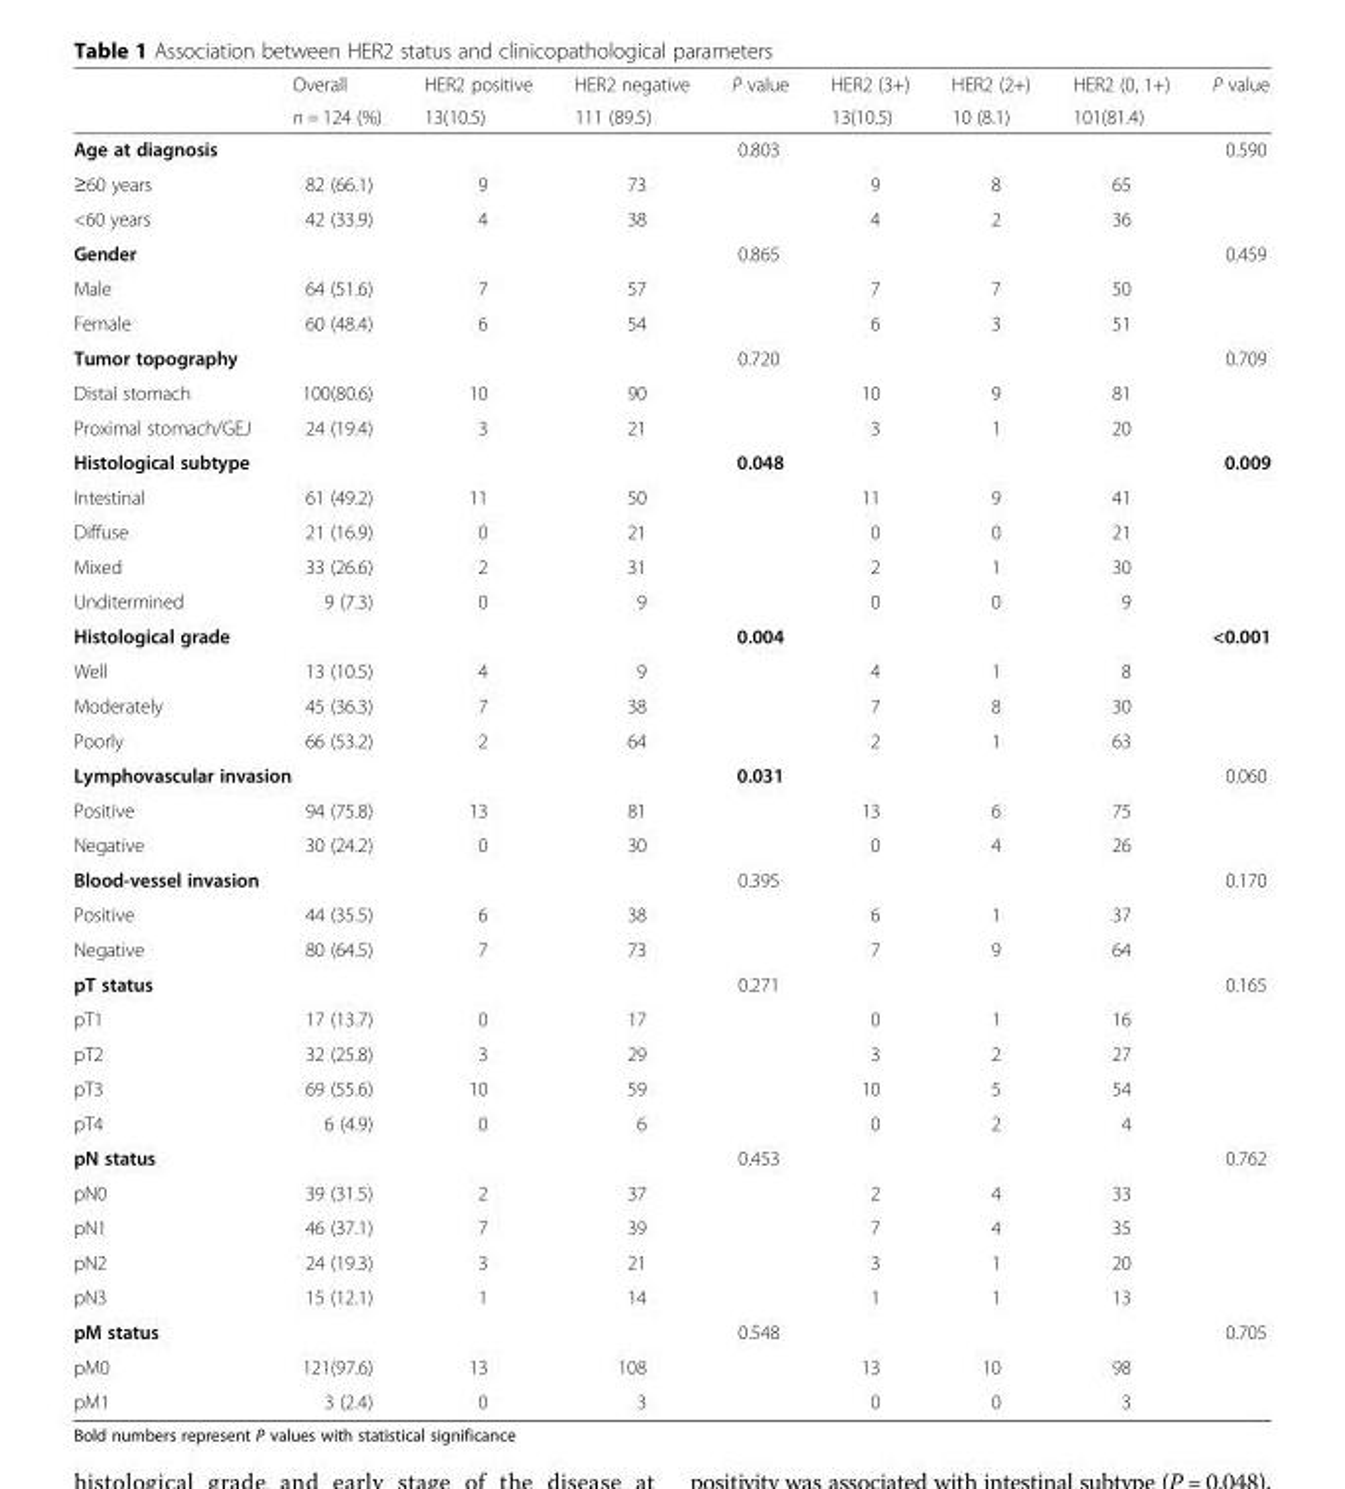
<table><thead><tr><td rowspan="2"></td><td rowspan="2">Overall n = 124 (%)</td><td rowspan="2">HER2 positive 13(10.5)</td><td rowspan="2">HER2 negative 111 (89.5)</td><td rowspan="2">P value</td><td rowspan="2">HER2 (3+) 13(10.5)</td><td rowspan="2">HER2 (2+) 10 (8.1)</td><td rowspan="2">HER2 (0, 1+) 101(81.4)</td><td rowspan="2">P value</td></tr><tr></tr></thead><tbody><tr><td colspan="2">Age at diagnosis</td><td></td><td></td><td>0.803</td><td></td><td></td><td></td><td>0.590</td></tr><tr><td>≥60 years</td><td>82 (66.1)</td><td>9</td><td>73</td><td></td><td>9</td><td>8</td><td>65</td><td></td></tr><tr><td>&lt;60 years</td><td>42 (33.9)</td><td>4</td><td>38</td><td></td><td>4</td><td>2</td><td>36</td><td></td></tr><tr><td colspan="2">Gender</td><td></td><td></td><td>0.865</td><td></td><td></td><td></td><td>0.459</td></tr><tr><td>Male</td><td>64 (51.6)</td><td>7</td><td>57</td><td></td><td>7</td><td>7</td><td>50</td><td></td></tr><tr><td>Female</td><td>60 (48.4)</td><td>6</td><td>54</td><td></td><td>6</td><td>3</td><td>51</td><td></td></tr><tr><td colspan="2">Tumor topography</td><td></td><td></td><td>0.720</td><td></td><td></td><td></td><td>0.709</td></tr><tr><td>Distal stomach</td><td>100(80.6)</td><td>10</td><td>90</td><td></td><td>10</td><td>9</td><td>81</td><td></td></tr><tr><td>Proximal stomach/GEJ</td><td>24 (19.4)</td><td>3</td><td>21</td><td></td><td>3</td><td>1</td><td>20</td><td></td></tr><tr><td colspan="2">Histological subtype</td><td></td><td></td><td>0.048</td><td></td><td></td><td></td><td>0.009</td></tr><tr><td>Intestinal</td><td>61 (49.2)</td><td>11</td><td>50</td><td></td><td>11</td><td>9</td><td>41</td><td></td></tr><tr><td>Diffuse</td><td>21 (16.9)</td><td>0</td><td>21</td><td></td><td>0</td><td>0</td><td>21</td><td></td></tr><tr><td>Mixed</td><td>33 (26.6)</td><td>2</td><td>31</td><td></td><td>2</td><td>1</td><td>30</td><td></td></tr><tr><td>Unditermined</td><td>9 (7.3)</td><td>0</td><td>9</td><td></td><td>0</td><td>0</td><td>9</td><td></td></tr><tr><td colspan="2">Histological grade</td><td></td><td></td><td>0.004</td><td></td><td></td><td></td><td>&lt;0.001</td></tr><tr><td>Well</td><td>13 (10.5)</td><td>4</td><td>9</td><td></td><td>4</td><td>1</td><td>8</td><td></td></tr><tr><td>Moderately</td><td>45 (36.3)</td><td>7</td><td>38</td><td></td><td>7</td><td>8</td><td>30</td><td></td></tr><tr><td>Poorly</td><td>66 (53.2)</td><td>2</td><td>64</td><td></td><td>2</td><td>1</td><td>63</td><td></td></tr><tr><td colspan="2">Lymphovascular invasion</td><td></td><td></td><td>0.031</td><td></td><td></td><td></td><td>0.060</td></tr><tr><td>Positive</td><td>94 (75.8)</td><td>13</td><td>81</td><td></td><td>13</td><td>6</td><td>75</td><td></td></tr><tr><td>Negative</td><td>30 (24.2)</td><td>0</td><td>30</td><td></td><td>0</td><td>4</td><td>26</td><td></td></tr><tr><td colspan="2">Blood-vessel invasion</td><td></td><td></td><td>0.395</td><td></td><td></td><td></td><td>0.170</td></tr><tr><td>Positive</td><td>44 (35.5)</td><td>6</td><td>38</td><td></td><td>6</td><td>1</td><td>37</td><td></td></tr><tr><td>Negative</td><td>80 (64.5)</td><td>7</td><td>73</td><td></td><td>7</td><td>9</td><td>64</td><td></td></tr><tr><td colspan="2">pT status</td><td></td><td></td><td>0.271</td><td></td><td></td><td></td><td>0.165</td></tr><tr><td>pT1</td><td>17 (13.7)</td><td>0</td><td>17</td><td></td><td>0</td><td>1</td><td>16</td><td></td></tr><tr><td>pT2</td><td>32 (25.8)</td><td>3</td><td>29</td><td></td><td>3</td><td>2</td><td>27</td><td></td></tr><tr><td>pT3</td><td>69 (55.6)</td><td>10</td><td>59</td><td></td><td>10</td><td>5</td><td>54</td><td></td></tr><tr><td>pT4</td><td>6 (4.9)</td><td>0</td><td>6</td><td></td><td>0</td><td>2</td><td>4</td><td></td></tr><tr><td colspan="2">pN status</td><td></td><td></td><td>0.453</td><td></td><td></td><td></td><td>0.762</td></tr><tr><td>pN0</td><td>39 (31.5)</td><td>2</td><td>37</td><td></td><td>2</td><td>4</td><td>33</td><td></td></tr><tr><td>pN1</td><td>46 (37.1)</td><td>7</td><td>39</td><td></td><td>7</td><td>4</td><td>35</td><td></td></tr><tr><td>pN2</td><td>24 (19.3)</td><td>3</td><td>21</td><td></td><td>3</td><td>1</td><td>20</td><td></td></tr><tr><td>pN3</td><td>15 (12.1)</td><td>1</td><td>14</td><td></td><td>1</td><td>1</td><td>13</td><td></td></tr><tr><td colspan="2">pM status</td><td></td><td></td><td>0.548</td><td></td><td></td><td></td><td>0.705</td></tr><tr><td>pM0</td><td>121(97.6)</td><td>13</td><td>108</td><td></td><td>13</td><td>10</td><td>98</td><td></td></tr><tr><td>pM1</td><td>3 (2.4)</td><td>0</td><td>3</td><td></td><td>0</td><td>0</td><td>3</td><td></td></tr></tbody></table>